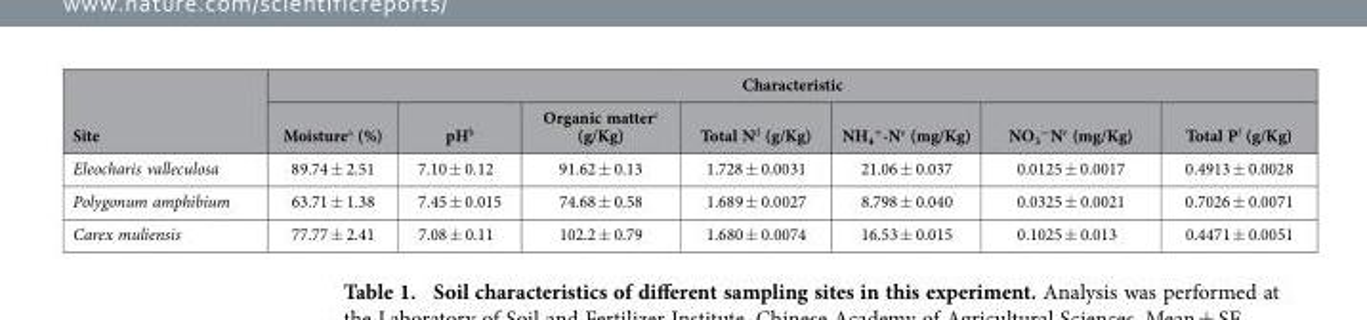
<table><thead><tr><td rowspan="2">Site</td><td colspan="7">Characteristic</td></tr><tr><td>Moisture<sup>a</sup> (%)</td><td>pH<sup>b</sup></td><td>Organic matter<sup>c</sup> (g/Kg)</td><td>Total N<sup>d</sup> (g/Kg)</td><td>NH<sub>4</sub> <sup>+</sup>-N<sup>e</sup> (mg/Kg)</td><td>NO<sub>3</sub> <sup>—</sup>N<sup>e</sup> (mg/Kg)</td><td>Total P<sup>f</sup> (g/Kg)</td></tr></thead><tbody><tr><td>Eleocharis valleculosa</td><td>89.74 ± 2.51</td><td>7.10 ± 0.12</td><td>91.62 ± 0.13</td><td>1.728 ± 0.0031</td><td>21.06 ± 0.037</td><td>0.0125 ± 0.0017</td><td>0.4913 ± 0.0028</td></tr><tr><td>Polygonum amphibium</td><td>63.71 ± 1.38</td><td>7.45 ± 0.015</td><td>74.68 ± 0.58</td><td>1.689 ± 0.0027</td><td>8.798 ± 0.040</td><td>0.0325 ± 0.0021</td><td>0.7026 ± 0.0071</td></tr><tr><td>Carex muliensis</td><td>77.77 ± 2.41</td><td>7.08 ± 0.11</td><td>102.2 ± 0.79</td><td>1.680 ± 0.0074</td><td>16.53 ± 0.015</td><td>0.1025 ± 0.013</td><td>0.4471 ± 0.0051</td></tr></tbody></table>